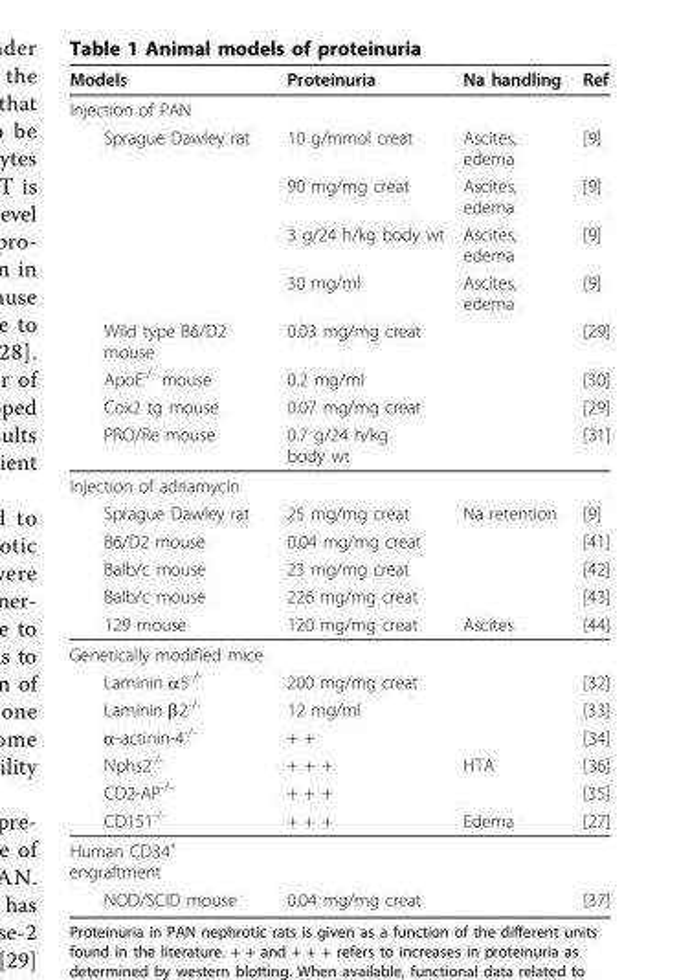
<table><thead><tr><td>Models</td><td>Proteinuria</td><td>Na handling</td><td>Ref</td></tr></thead><tbody><tr><td colspan="4">Injection of PAN</td></tr><tr><td rowspan="4">Sprague Dawley rat</td><td>10 g/mmol creat</td><td>Ascites, edema</td><td>[9]</td></tr><tr><td>90 mg/mg creat</td><td>Ascites, edema</td><td>[9]</td></tr><tr><td>3 g/24 h/kg body wt</td><td>Ascites, edema</td><td>[9]</td></tr><tr><td>30 mg/ml</td><td>Ascites, edema</td><td>[9]</td></tr><tr><td>Wild type B6/D2 mouse</td><td>0.03 mg/mg creat</td><td></td><td>[29]</td></tr><tr><td>ApoE<sup>-/-</sup> mouse</td><td>0.2 mg/ml</td><td></td><td>[30]</td></tr><tr><td>Cox2 tg mouse</td><td>0.07 mg/mg creat</td><td></td><td>[29]</td></tr><tr><td>PRO/Re mouse</td><td>0.7 g/24 h/kg body wt</td><td></td><td>[31]</td></tr><tr><td colspan="4">Injection of adriamycin</td></tr><tr><td>Sprague Dawley rat</td><td>25 mg/mg creat</td><td>Na retention</td><td>[9]</td></tr><tr><td>B6/D2 mouse</td><td>0.04 mg/mg creat</td><td></td><td>[41]</td></tr><tr><td>Balb/c mouse</td><td>23 mg/mg creat</td><td></td><td>[42]</td></tr><tr><td>Balb/c mouse</td><td>226 mg/mg creat</td><td></td><td>[43]</td></tr><tr><td>129 mouse</td><td>120 mg/mg creat</td><td>Ascites</td><td>[44]</td></tr><tr><td colspan="4">Genetically modified mice</td></tr><tr><td>Laminin α5<sup>-/-</sup></td><td>200 mg/mg creat</td><td></td><td>[32]</td></tr><tr><td>Laminin β2<sup>-/-</sup></td><td>12 mg/ml</td><td></td><td>[33]</td></tr><tr><td>α-actinin-4<sup>-/-</sup></td><td>+ +</td><td></td><td>[34]</td></tr><tr><td>Nphs2<sup>-/-</sup></td><td>+ + +</td><td>HTA</td><td>[36]</td></tr><tr><td>CD2-AP<sup>-/-</sup></td><td>+ + +</td><td></td><td>[35]</td></tr><tr><td>CD151<sup>-/-</sup></td><td>+ + +</td><td>Edema</td><td>[27]</td></tr><tr><td colspan="4">Human CD34<sup>+</sup> engraftment</td></tr><tr><td>NOD/SCID mouse</td><td>0.04 mg/mg creat</td><td></td><td>[37]</td></tr></tbody></table>